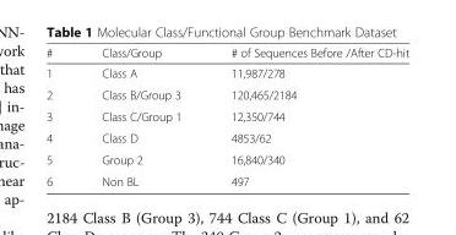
<table><thead><tr><td>#</td><td>Class/Group</td><td># of Sequences Before /After CD-hit</td></tr></thead><tbody><tr><td>1</td><td>Class A</td><td>11,987/278</td></tr><tr><td>2</td><td>Class B/Group 3</td><td>120,465/2184</td></tr><tr><td>3</td><td>Class C/Group 1</td><td>12,350/744</td></tr><tr><td>4</td><td>Class D</td><td>4853/62</td></tr><tr><td>5</td><td>Group 2</td><td>16,840/340</td></tr><tr><td>6</td><td>Non BL</td><td>497</td></tr></tbody></table>